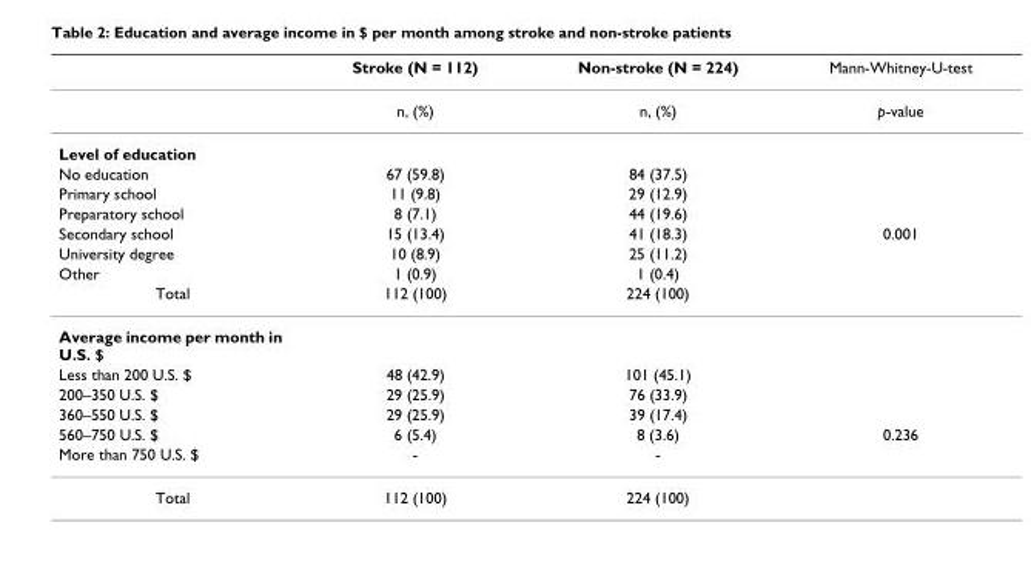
<table><thead><tr><td></td><td>Stroke (N = 112)</td><td>Non-stroke (N = 224)</td><td>Mann-Whitney-U-test</td></tr></thead><tbody><tr><td></td><td>n, (%)</td><td>n, (%)</td><td>p-value</td></tr><tr><td colspan="4">Level of education</td></tr><tr><td>No education</td><td>67 (59.8)</td><td>84 (37.5)</td><td></td></tr><tr><td>Primary school</td><td>11 (9.8)</td><td>29 (12.9)</td><td></td></tr><tr><td>Preparatory school</td><td>8 (7.1)</td><td>44 (19.6)</td><td></td></tr><tr><td>Secondary school</td><td>15 (13.4)</td><td>41 (18.3)</td><td>0.001</td></tr><tr><td>University degree</td><td>10 (8.9)</td><td>25 (11.2)</td><td></td></tr><tr><td>Other</td><td>1 (0.9)</td><td>1 (0.4)</td><td></td></tr><tr><td>Total</td><td>112 (100)</td><td>224 (100)</td><td></td></tr><tr><td colspan="4">Average income per month in U.S. $</td></tr><tr><td>Less than 200 U.S. $</td><td>48 (42.9)</td><td>101 (45.1)</td><td></td></tr><tr><td>200–350 U.S. $</td><td>29 (25.9)</td><td>76 (33.9)</td><td></td></tr><tr><td>360–550 U.S. $</td><td>29 (25.9)</td><td>39 (17.4)</td><td></td></tr><tr><td>560–750 U.S. $</td><td>6 (5.4)</td><td>8 (3.6)</td><td>0.236</td></tr><tr><td>More than 750 U.S. $</td><td>-</td><td>-</td><td></td></tr><tr><td>Total</td><td>112 (100)</td><td>224 (100)</td><td></td></tr></tbody></table>